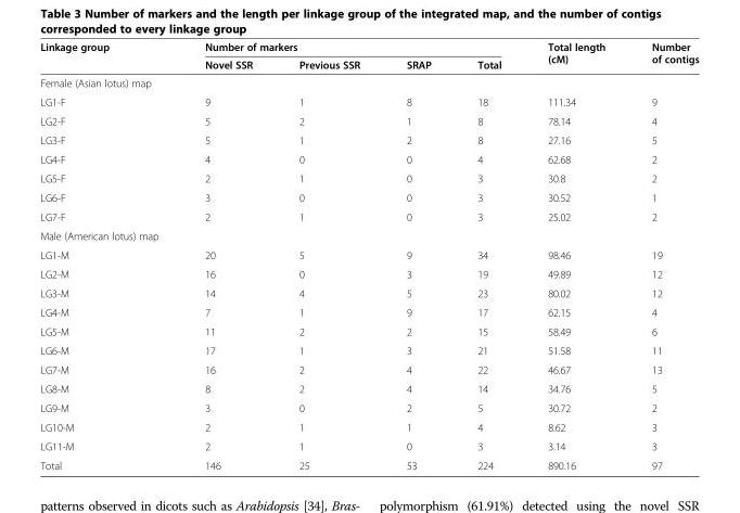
<table><thead><tr><td rowspan="2">Linkage group</td><td colspan="4">Number of markers</td><td rowspan="2">Total length (cM)</td><td rowspan="2">Number of contigs</td></tr><tr><td>Novel SSR</td><td>Previous SSR</td><td>SRAP</td><td>Total</td></tr></thead><tbody><tr><td colspan="7">Female (Asian lotus) map</td></tr><tr><td>LG1-F</td><td>9</td><td>1</td><td>8</td><td>18</td><td>111.34</td><td>9</td></tr><tr><td>LG2-F</td><td>5</td><td>2</td><td>1</td><td>8</td><td>78.14</td><td>4</td></tr><tr><td>LG3-F</td><td>5</td><td>1</td><td>2</td><td>8</td><td>27.16</td><td>5</td></tr><tr><td>LG4-F</td><td>4</td><td>0</td><td>0</td><td>4</td><td>62.68</td><td>2</td></tr><tr><td>LG5-F</td><td>2</td><td>1</td><td>0</td><td>3</td><td>30.8</td><td>2</td></tr><tr><td>LG6-F</td><td>3</td><td>0</td><td>0</td><td>3</td><td>30.52</td><td>1</td></tr><tr><td>LG7-F</td><td>2</td><td>1</td><td>0</td><td>3</td><td>25.02</td><td>2</td></tr><tr><td colspan="7">Male (American lotus) map</td></tr><tr><td>LG1-M</td><td>20</td><td>5</td><td>9</td><td>34</td><td>98.46</td><td>19</td></tr><tr><td>LG2-M</td><td>16</td><td>0</td><td>3</td><td>19</td><td>49.89</td><td>12</td></tr><tr><td>LG3-M</td><td>14</td><td>4</td><td>5</td><td>23</td><td>80.02</td><td>12</td></tr><tr><td>LG4-M</td><td>7</td><td>1</td><td>9</td><td>17</td><td>62.15</td><td>4</td></tr><tr><td>LG5-M</td><td>11</td><td>2</td><td>2</td><td>15</td><td>58.49</td><td>6</td></tr><tr><td>LG6-M</td><td>17</td><td>1</td><td>3</td><td>21</td><td>51.58</td><td>11</td></tr><tr><td>LG7-M</td><td>16</td><td>2</td><td>4</td><td>22</td><td>46.67</td><td>13</td></tr><tr><td>LG8-M</td><td>8</td><td>2</td><td>4</td><td>14</td><td>34.76</td><td>5</td></tr><tr><td>LG9-M</td><td>3</td><td>0</td><td>2</td><td>5</td><td>30.72</td><td>2</td></tr><tr><td>LG10-M</td><td>2</td><td>1</td><td>1</td><td>4</td><td>8.62</td><td>3</td></tr><tr><td>LG11-M</td><td>2</td><td>1</td><td>0</td><td>3</td><td>3.14</td><td>3</td></tr><tr><td>Total</td><td>146</td><td>25</td><td>53</td><td>224</td><td>890.16</td><td>97</td></tr></tbody></table>